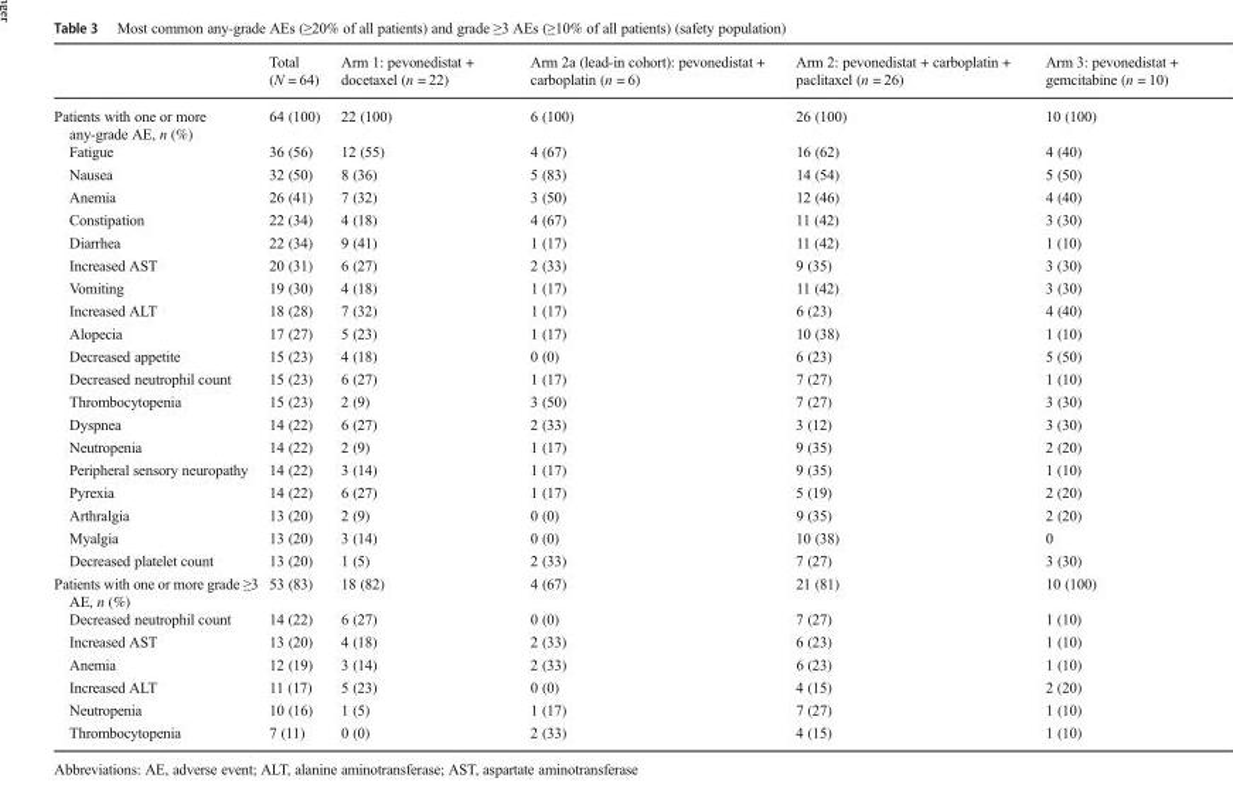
<table><thead><tr><td></td><td>Total (N = 64)</td><td>Arm 1: pevonedistat + docetaxel (n = 22)</td><td>Arm 2a (lead-in cohort): pevonedistat + carboplatin (n = 6)</td><td>Arm 2: pevonedistat + carboplatin + paclitaxel (n = 26)</td><td>Arm 3: pevonedistat + gemcitabine (n = 10)</td></tr></thead><tbody><tr><td>Patients with one or more any-grade AE, n (%)</td><td>64 (100)</td><td>22 (100)</td><td>6 (100)</td><td>26 (100)</td><td>10 (100)</td></tr><tr><td>Fatigue</td><td>36 (56)</td><td>12 (55)</td><td>4 (67)</td><td>16 (62)</td><td>4 (40)</td></tr><tr><td>Nausea</td><td>32 (50)</td><td>8 (36)</td><td>5 (83)</td><td>14 (54)</td><td>5 (50)</td></tr><tr><td>Anemia</td><td>26 (41)</td><td>7 (32)</td><td>3 (50)</td><td>12 (46)</td><td>4 (40)</td></tr><tr><td>Constipation</td><td>22 (34)</td><td>4 (18)</td><td>4 (67)</td><td>11 (42)</td><td>3 (30)</td></tr><tr><td>Diarrhea</td><td>22 (34)</td><td>9 (41)</td><td>1 (17)</td><td>11 (42)</td><td>1 (10)</td></tr><tr><td>Increased AST</td><td>20 (31)</td><td>6 (27)</td><td>2 (33)</td><td>9 (35)</td><td>3 (30)</td></tr><tr><td>Vomiting</td><td>19 (30)</td><td>4 (18)</td><td>1 (17)</td><td>11 (42)</td><td>3 (30)</td></tr><tr><td>Increased ALT</td><td>18 (28)</td><td>7 (32)</td><td>1 (17)</td><td>6 (23)</td><td>4 (40)</td></tr><tr><td>Alopecia</td><td>17 (27)</td><td>5 (23)</td><td>1 (17)</td><td>10 (38)</td><td>1 (10)</td></tr><tr><td>Decreased appetite</td><td>15 (23)</td><td>4 (18)</td><td>0 (0)</td><td>6 (23)</td><td>5 (50)</td></tr><tr><td>Decreased neutrophil count</td><td>15 (23)</td><td>6 (27)</td><td>1 (17)</td><td>7 (27)</td><td>1 (10)</td></tr><tr><td>Thrombocytopenia</td><td>15 (23)</td><td>2 (9)</td><td>3 (50)</td><td>7 (27)</td><td>3 (30)</td></tr><tr><td>Dyspnea</td><td>14 (22)</td><td>6 (27)</td><td>2 (33)</td><td>3 (12)</td><td>3 (30)</td></tr><tr><td>Neutropenia</td><td>14 (22)</td><td>2 (9)</td><td>1 (17)</td><td>9 (35)</td><td>2 (20)</td></tr><tr><td>Peripheral sensory neuropathy</td><td>14 (22)</td><td>3 (14)</td><td>1 (17)</td><td>9 (35)</td><td>1 (10)</td></tr><tr><td>Pyrexia</td><td>14 (22)</td><td>6 (27)</td><td>1 (17)</td><td>5 (19)</td><td>2 (20)</td></tr><tr><td>Arthralgia</td><td>13 (20)</td><td>2 (9)</td><td>0 (0)</td><td>9 (35)</td><td>2 (20)</td></tr><tr><td>Myalgia</td><td>13 (20)</td><td>3 (14)</td><td>0 (0)</td><td>10 (38)</td><td>0</td></tr><tr><td>Decreased platelet count</td><td>13 (20)</td><td>1 (5)</td><td>2 (33)</td><td>7 (27)</td><td>3 (30)</td></tr><tr><td>Patients with one or more grade ≥3 AE, n (%)</td><td>53 (83)</td><td>18 (82)</td><td>4 (67)</td><td>21 (81)</td><td>10 (100)</td></tr><tr><td>Decreased neutrophil count</td><td>14 (22)</td><td>6 (27)</td><td>0 (0)</td><td>7 (27)</td><td>1 (10)</td></tr><tr><td>Increased AST</td><td>13 (20)</td><td>4 (18)</td><td>2 (33)</td><td>6 (23)</td><td>1 (10)</td></tr><tr><td>Anemia</td><td>12 (19)</td><td>3 (14)</td><td>2 (33)</td><td>6 (23)</td><td>1 (10)</td></tr><tr><td>Increased ALT</td><td>11 (17)</td><td>5 (23)</td><td>0 (0)</td><td>4 (15)</td><td>2 (20)</td></tr><tr><td>Neutropenia</td><td>10 (16)</td><td>1 (5)</td><td>1 (17)</td><td>7 (27)</td><td>1 (10)</td></tr><tr><td>Thrombocytopenia</td><td>7 (11)</td><td>0 (0)</td><td>2 (33)</td><td>4 (15)</td><td>1 (10)</td></tr></tbody></table>